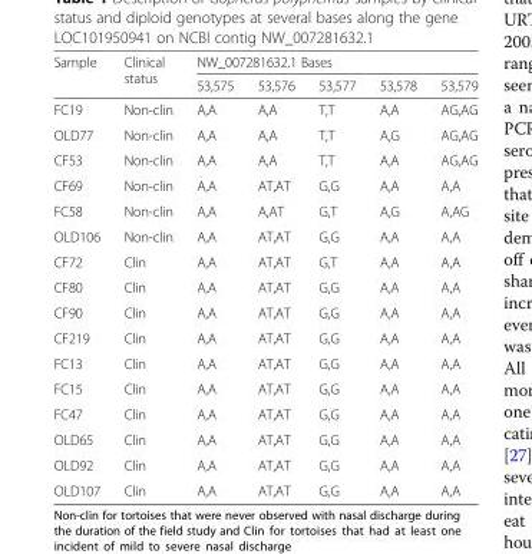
<table><thead><tr><td rowspan="2">Sample</td><td rowspan="2">Clinical status</td><td colspan="5">NW_007281632.1 Bases</td></tr><tr><td>53,575</td><td>53,576</td><td>53,577</td><td>53,578</td><td>53,579</td></tr></thead><tbody><tr><td>FC19</td><td>Non-clin</td><td>A,A</td><td>A,A</td><td>T,T</td><td>A,A</td><td>AG,AG</td></tr><tr><td>OLD77</td><td>Non-clin</td><td>A,A</td><td>A,A</td><td>T,T</td><td>A,G</td><td>AG,AG</td></tr><tr><td>CF53</td><td>Non-clin</td><td>A,A</td><td>A,A</td><td>T,T</td><td>A,A</td><td>AG,AG</td></tr><tr><td>CF69</td><td>Non-clin</td><td>A,A</td><td>AT,AT</td><td>G,G</td><td>A,A</td><td>A,A</td></tr><tr><td>FC58</td><td>Non-clin</td><td>A,A</td><td>A,AT</td><td>G,T</td><td>A,G</td><td>A,AG</td></tr><tr><td>OLD106</td><td>Non-clin</td><td>A,A</td><td>AT,AT</td><td>G,G</td><td>A,A</td><td>A,A</td></tr><tr><td>CF72</td><td>Clin</td><td>A,A</td><td>AT,AT</td><td>G,T</td><td>A,A</td><td>A,A</td></tr><tr><td>CF80</td><td>Clin</td><td>A,A</td><td>AT,AT</td><td>G,G</td><td>A,A</td><td>A,A</td></tr><tr><td>CF90</td><td>Clin</td><td>A,A</td><td>AT,AT</td><td>G,G</td><td>A,A</td><td>A,A</td></tr><tr><td>CF219</td><td>Clin</td><td>A,A</td><td>AT,AT</td><td>G,G</td><td>A,A</td><td>A,A</td></tr><tr><td>FC13</td><td>Clin</td><td>A,A</td><td>AT,AT</td><td>G,G</td><td>A,A</td><td>A,A</td></tr><tr><td>FC15</td><td>Clin</td><td>A,A</td><td>AT,AT</td><td>G,G</td><td>A,A</td><td>A,A</td></tr><tr><td>FC47</td><td>Clin</td><td>A,A</td><td>AT,AT</td><td>G,G</td><td>A,A</td><td>A,A</td></tr><tr><td>OLD65</td><td>Clin</td><td>A,A</td><td>AT,AT</td><td>G,G</td><td>A,A</td><td>A,A</td></tr><tr><td>OLD92</td><td>Clin</td><td>A,A</td><td>AT,AT</td><td>G,G</td><td>A,A</td><td>A,A</td></tr><tr><td>OLD107</td><td>Clin</td><td>A,A</td><td>AT,AT</td><td>G,G</td><td>A,A</td><td>A,A</td></tr></tbody></table>